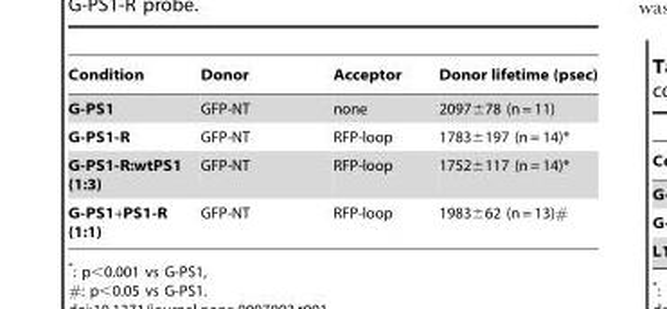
<table><thead><tr><td>Condition</td><td>Donor</td><td>Acceptor</td><td>Donor lifetime (psec)</td></tr></thead><tbody><tr><td>G-PS1</td><td>GFP-NT</td><td>none</td><td>2097±78 (n = 11)</td></tr><tr><td>G-PS1-R</td><td>GFP-NT</td><td>RFP-loop</td><td>1783±197 (n = 14)*</td></tr><tr><td>G-PS1-R:wtPS1 (1:3)</td><td>GFP-NT</td><td>RFP-loop</td><td>1752±117 (n = 14)*</td></tr><tr><td>G-PS1+PS1-R (1:1)</td><td>GFP-NT</td><td>RFP-loop</td><td>1983±62 (n = 13)#</td></tr></tbody></table>